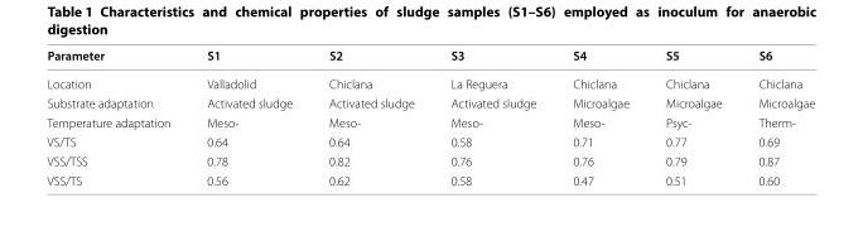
<table><thead><tr><td>Parameter</td><td>S1</td><td>S2</td><td>S3</td><td>S4</td><td>S5</td><td>S6</td></tr></thead><tbody><tr><td>Location</td><td>Valladolid</td><td>Chiclana</td><td>La Reguera</td><td>Chiclana</td><td>Chiclana</td><td>Chiclana</td></tr><tr><td>Substrate adaptation</td><td>Activated sludge</td><td>Activated sludge</td><td>Activated sludge</td><td>Microalgae</td><td>Microalgae</td><td>Microalgae</td></tr><tr><td>Temperature adaptation</td><td>Meso‑</td><td>Meso‑</td><td>Meso‑</td><td>Meso‑</td><td>Psyc‑</td><td>Therm‑</td></tr><tr><td>VS/TS</td><td>0.64</td><td>0.64</td><td>0.58</td><td>0.71</td><td>0.77</td><td>0.69</td></tr><tr><td>VSS/TSS</td><td>0.78</td><td>0.82</td><td>0.76</td><td>0.76</td><td>0.79</td><td>0.87</td></tr><tr><td>VSS/TS</td><td>0.56</td><td>0.62</td><td>0.58</td><td>0.47</td><td>0.51</td><td>0.60</td></tr></tbody></table>